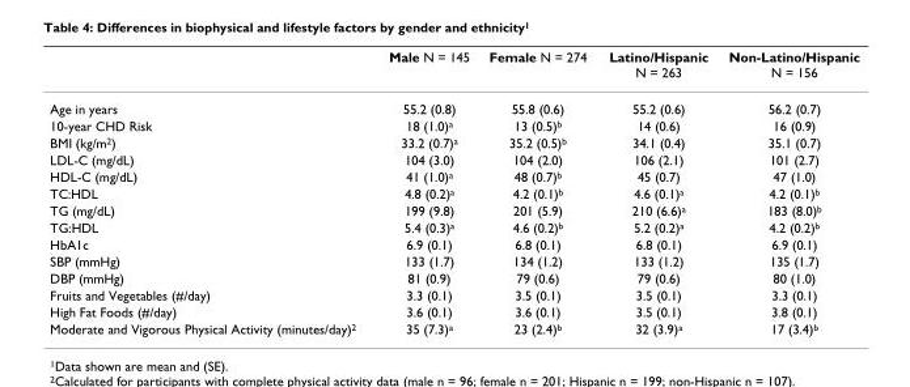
<table><thead><tr><td></td><td>Male N = 145</td><td>Female N = 274</td><td>Latino/Hispanic N = 263</td><td>Non-Latino/Hispanic N = 156</td></tr></thead><tbody><tr><td>Age in years</td><td>55.2 (0.8)</td><td>55.8 (0.6)</td><td>55.2 (0.6)</td><td>56.2 (0.7)</td></tr><tr><td>10-year CHD Risk</td><td>18 (1.0)<sup>a</sup></td><td>13 (0.5)<sup>b</sup></td><td>14 (0.6)</td><td>16 (0.9)</td></tr><tr><td>BMI (kg/m<sup>2</sup>)</td><td>33.2 (0.7)<sup>a</sup></td><td>35.2 (0.5)<sup>b</sup></td><td>34.1 (0.4)</td><td>35.1 (0.7)</td></tr><tr><td>LDL-C (mg/dL)</td><td>104 (3.0)</td><td>104 (2.0)</td><td>106 (2.1)</td><td>101 (2.7)</td></tr><tr><td>HDL-C (mg/dL)</td><td>41 (1.0)<sup>a</sup></td><td>48 (0.7)<sup>b</sup></td><td>45 (0.7)</td><td>47 (1.0)</td></tr><tr><td>TC:HDL</td><td>4.8 (0.2)<sup>a</sup></td><td>4.2 (0.1)<sup>b</sup></td><td>4.6 (0.1)<sup>a</sup></td><td>4.2 (0.1)<sup>b</sup></td></tr><tr><td>TG (mg/dL)</td><td>199 (9.8)</td><td>201 (5.9)</td><td>210 (6.6)<sup>a</sup></td><td>183 (8.0)<sup>b</sup></td></tr><tr><td>TG:HDL</td><td>5.4 (0.3)<sup>a</sup></td><td>4.6 (0.2)<sup>b</sup></td><td>5.2 (0.2)<sup>a</sup></td><td>4.2 (0.2)<sup>b</sup></td></tr><tr><td>HbA1c</td><td>6.9 (0.1)</td><td>6.8 (0.1)</td><td>6.8 (0.1)</td><td>6.9 (0.1)</td></tr><tr><td>SBP (mmHg)</td><td>133 (1.7)</td><td>134 (1.2)</td><td>133 (1.2)</td><td>135 (1.7)</td></tr><tr><td>DBP (mmHg)</td><td>81 (0.9)</td><td>79 (0.6)</td><td>79 (0.6)</td><td>80 (1.0)</td></tr><tr><td>Fruits and Vegetables (#/day)</td><td>3.3 (0.1)</td><td>3.5 (0.1)</td><td>3.5 (0.1)</td><td>3.3 (0.1)</td></tr><tr><td>High Fat Foods (#/day)</td><td>3.6 (0.1)</td><td>3.6 (0.1)</td><td>3.5 (0.1)</td><td>3.8 (0.1)</td></tr><tr><td>Moderate and Vigorous Physical Activity (minutes/day)<sup>2</sup></td><td>35 (7.3)<sup>a</sup></td><td>23 (2.4)<sup>b</sup></td><td>32 (3.9)<sup>a</sup></td><td>17 (3.4)<sup>b</sup></td></tr></tbody></table>